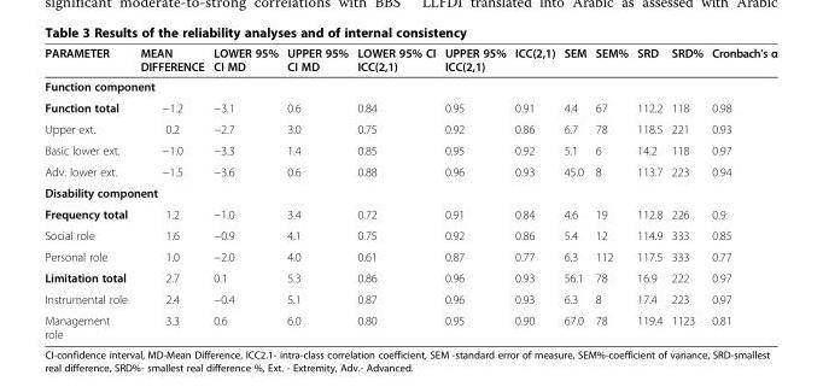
<table><thead><tr><td>PARAMETER</td><td>MEAN DIFFERENCE</td><td>LOWER 95% CI MD</td><td>UPPER 95% CI MD</td><td>LOWER 95% CI ICC(2,1)</td><td>UPPER 95% ICC(2,1)</td><td>ICC(2,1)</td><td>SEM</td><td>SEM%</td><td>SRD</td><td>SRD%</td><td>Cronbach’s α</td></tr></thead><tbody><tr><td colspan="12">Function component</td></tr><tr><td>Function total</td><td>−1.2</td><td>−3.1</td><td>0.6</td><td>0.84</td><td>0.95</td><td>0.91</td><td>4.4</td><td>67</td><td>112.2</td><td>118</td><td>0.98</td></tr><tr><td>Upper ext.</td><td>0.2</td><td>−2.7</td><td>3.0</td><td>0.75</td><td>0.92</td><td>0.86</td><td>6.7</td><td>78</td><td>118.5</td><td>221</td><td>0.93</td></tr><tr><td>Basic lower ext.</td><td>−1.0</td><td>−3.3</td><td>1.4</td><td>0.85</td><td>0.95</td><td>0.92</td><td>5.1</td><td>6</td><td>14.2</td><td>118</td><td>0.97</td></tr><tr><td>Adv. lower ext.</td><td>−1.5</td><td>−3.6</td><td>0.6</td><td>0.88</td><td>0.96</td><td>0.93</td><td>45.0</td><td>8</td><td>113.7</td><td>223</td><td>0.94</td></tr><tr><td colspan="12">Disability component</td></tr><tr><td>Frequency total</td><td>1.2</td><td>−1.0</td><td>3.4</td><td>0.72</td><td>0.91</td><td>0.84</td><td>4.6</td><td>19</td><td>112.8</td><td>226</td><td>0.9</td></tr><tr><td>Social role</td><td>1.6</td><td>−0.9</td><td>4.1</td><td>0.75</td><td>0.92</td><td>0.86</td><td>5.4</td><td>12</td><td>114.9</td><td>333</td><td>0.85</td></tr><tr><td>Personal role</td><td>1.0</td><td>−2.0</td><td>4.0</td><td>0.61</td><td>0.87</td><td>0.77</td><td>6.3</td><td>112</td><td>117.5</td><td>333</td><td>0.77</td></tr><tr><td>Limitation total</td><td>2.7</td><td>0.1</td><td>5.3</td><td>0.86</td><td>0.96</td><td>0.93</td><td>56.1</td><td>78</td><td>16.9</td><td>222</td><td>0.97</td></tr><tr><td>Instrumental role</td><td>2.4</td><td>−0.4</td><td>5.1</td><td>0.87</td><td>0.96</td><td>0.93</td><td>6.3</td><td>8</td><td>17.4</td><td>223</td><td>0.97</td></tr><tr><td>Management role</td><td>3.3</td><td>0.6</td><td>6.0</td><td>0.80</td><td>0.95</td><td>0.90</td><td>67.0</td><td>78</td><td>119.4</td><td>1123</td><td>0.81</td></tr></tbody></table>